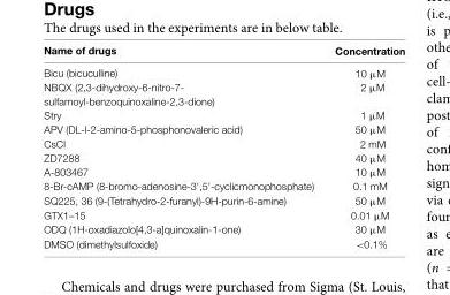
<table><thead><tr><td>Name of drugs</td><td>Concentration</td></tr></thead><tbody><tr><td>Bicu (bicuculline)</td><td>10 µM</td></tr><tr><td>NBQX (2,3-dihydroxy-6-nitro-7- sulfamoyl-benzoquinoxaline-2,3-dione)</td><td>2 µM</td></tr><tr><td>Stry</td><td>1 µM</td></tr><tr><td>APV (DL-l-2-amino-5-phosphonovaleric acid)</td><td>50 µM</td></tr><tr><td>CsCl</td><td>2 mM</td></tr><tr><td>ZD7288</td><td>40 µM</td></tr><tr><td>A-803467</td><td>10 µM</td></tr><tr><td>8-Br-cAMP (8-bromo-adenosine-3′,5′-cyclicmonophosphate)</td><td>0.1 mM</td></tr><tr><td>SQ225, 36 (9-(Tetrahydro-2-furanyl)-9H-purin-6-amine)</td><td>50 µM</td></tr><tr><td>GTX1–15</td><td>0.01 µM</td></tr><tr><td>ODQ (1H-oxadiazolo[4,3-a]quinoxalin-1-one)</td><td>30 µM</td></tr><tr><td>DMSO (dimethylsulfoxide)</td><td>&lt;0.1%</td></tr></tbody></table>